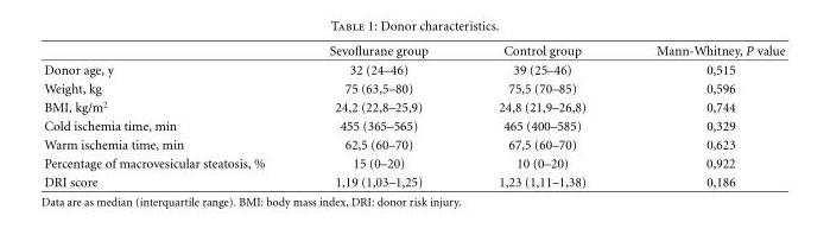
<table><thead><tr><td></td><td>Sevoflurane group</td><td>Control group</td><td>Mann-Whitney, P value</td></tr></thead><tbody><tr><td>Donor age, y</td><td>32 (24–46)</td><td>39 (25–46)</td><td>0,515</td></tr><tr><td>Weight, kg</td><td>75 (63,5–80)</td><td>75,5 (70–85)</td><td>0,596</td></tr><tr><td>BMI, kg/m<sup>2</sup></td><td>24,2 (22,8–25,9)</td><td>24,8 (21,9–26,8)</td><td>0,744</td></tr><tr><td>Cold ischemia time, min</td><td>455 (365–565)</td><td>465 (400–585)</td><td>0,329</td></tr><tr><td>Warm ischemia time, min</td><td>62,5 (60–70)</td><td>67,5 (60–70)</td><td>0,623</td></tr><tr><td>Percentage of macrovesicular steatosis, %</td><td>15 (0–20)</td><td>10 (0–20)</td><td>0,922</td></tr><tr><td>DRI score</td><td>1,19 (1,03–1,25)</td><td>1,23 (1,11–1,38)</td><td>0,186</td></tr></tbody></table>